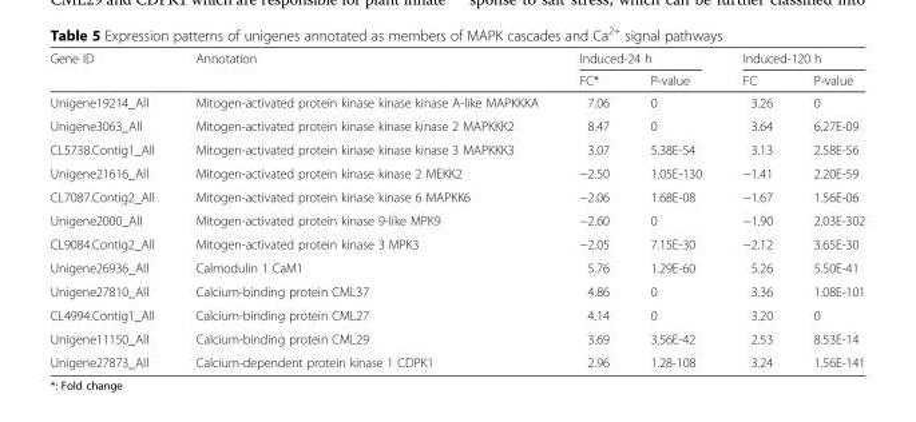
<table><thead><tr><td rowspan="2">Gene ID</td><td rowspan="2">Annotation</td><td colspan="2">Induced-24 h</td><td colspan="2">Induced-120 h</td></tr><tr><td>FC*</td><td>P-value</td><td>FC</td><td>P-value</td></tr></thead><tbody><tr><td>Unigene19214_All</td><td>Mitogen-activated protein kinase kinase kinase A-like MAPKKKA</td><td>7.06</td><td>0</td><td>3.26</td><td>0</td></tr><tr><td>Unigene3063_All</td><td>Mitogen-activated protein kinase kinase kinase 2 MAPKKK2</td><td>8.47</td><td>0</td><td>3.64</td><td>6.27E-09</td></tr><tr><td>CL5738.Contig1_All</td><td>Mitogen-activated protein kinase kinase kinase 3 MAPKKK3</td><td>3.07</td><td>5.38E-54</td><td>3.13</td><td>2.58E-56</td></tr><tr><td>Unigene21616_All</td><td>Mitogen-activated protein kinase kinase 2 MEKK2</td><td>−2.50</td><td>1.05E-130</td><td>−1.41</td><td>2.20E-59</td></tr><tr><td>CL7087.Contig2_All</td><td>Mitogen-activated protein kinase kinase 6 MAPKK6</td><td>−2.06</td><td>1.68E-08</td><td>−1.67</td><td>1.56E-06</td></tr><tr><td>Unigene2000_All</td><td>Mitogen-activated protein kinase 9-like MPK9</td><td>−2.60</td><td>0</td><td>−1.90</td><td>2.03E-302</td></tr><tr><td>CL9084.Contig2_All</td><td>Mitogen-activated protein kinase 3 MPK3</td><td>−2.05</td><td>7.15E-30</td><td>−2.12</td><td>3.65E-30</td></tr><tr><td>Unigene26936_All</td><td>Calmodulin 1 CaM1</td><td>5.76</td><td>1.29E-60</td><td>5.26</td><td>5.50E-41</td></tr><tr><td>Unigene27810_All</td><td>Calcium-binding protein CML37</td><td>4.86</td><td>0</td><td>3.36</td><td>1.08E-101</td></tr><tr><td>CL4994.Contig1_All</td><td>Calcium-binding protein CML27</td><td>4.14</td><td>0</td><td>3.20</td><td>0</td></tr><tr><td>Unigene11150_All</td><td>Calcium-binding protein CML29</td><td>3.69</td><td>3.56E-42</td><td>2.53</td><td>8.53E-14</td></tr><tr><td>Unigene27873_All</td><td>Calcium-dependent protein kinase 1 CDPK1</td><td>2.96</td><td>1.28-108</td><td>3.24</td><td>1.56E-141</td></tr></tbody></table>